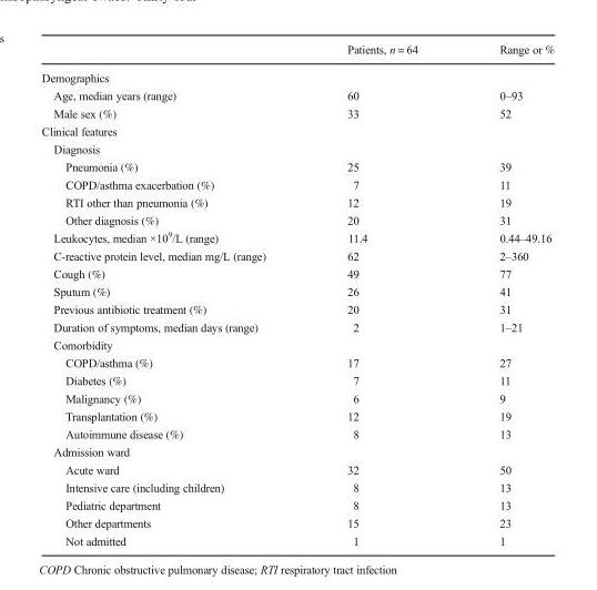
<table><thead><tr><td></td><td>Patients, n = 64</td><td>Range or %</td></tr></thead><tbody><tr><td colspan="3">Demographics</td></tr><tr><td>Age, median years (range)</td><td>60</td><td>0–93</td></tr><tr><td>Male sex (%)</td><td>33</td><td>52</td></tr><tr><td colspan="3">Clinical features</td></tr><tr><td colspan="3">Diagnosis</td></tr><tr><td>Pneumonia (%)</td><td>25</td><td>39</td></tr><tr><td>COPD/asthma exacerbation (%)</td><td>7</td><td>11</td></tr><tr><td>RTI other than pneumonia (%)</td><td>12</td><td>19</td></tr><tr><td>Other diagnosis (%)</td><td>20</td><td>31</td></tr><tr><td>Leukocytes, median ×10<sup>9</sup>/L (range)</td><td>11.4</td><td>0.44–49.16</td></tr><tr><td>C-reactive protein level, median mg/L (range)</td><td>62</td><td>2–360</td></tr><tr><td>Cough (%)</td><td>49</td><td>77</td></tr><tr><td>Sputum (%)</td><td>26</td><td>41</td></tr><tr><td>Previous antibiotic treatment (%)</td><td>20</td><td>31</td></tr><tr><td>Duration of symptoms, median days (range)</td><td>2</td><td>1–21</td></tr><tr><td colspan="3">Comorbidity</td></tr><tr><td>COPD/asthma (%)</td><td>17</td><td>27</td></tr><tr><td>Diabetes (%)</td><td>7</td><td>11</td></tr><tr><td>Malignancy (%)</td><td>6</td><td>9</td></tr><tr><td>Transplantation (%)</td><td>12</td><td>19</td></tr><tr><td>Autoimmune disease (%)</td><td>8</td><td>13</td></tr><tr><td colspan="3">Admission ward</td></tr><tr><td>Acute ward</td><td>32</td><td>50</td></tr><tr><td>Intensive care (including children)</td><td>8</td><td>13</td></tr><tr><td>Pediatric department</td><td>8</td><td>13</td></tr><tr><td>Other departments</td><td>15</td><td>23</td></tr><tr><td>Not admitted</td><td>1</td><td>1</td></tr></tbody></table>